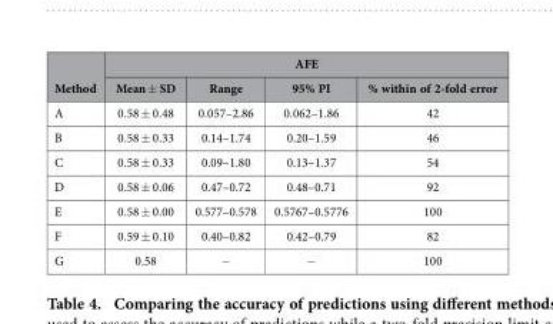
<table><thead><tr><td rowspan="2">Method</td><td colspan="4">AFE</td></tr><tr><td>Mean ± SD</td><td>Range</td><td>95% PI</td><td>% within of 2-fold error</td></tr></thead><tbody><tr><td>A</td><td>0.58 ± 0.48</td><td>0.057–2.86</td><td>0.062–1.86</td><td>42</td></tr><tr><td>B</td><td>0.58 ± 0.33</td><td>0.14–1.74</td><td>0.20–1.59</td><td>46</td></tr><tr><td>C</td><td>0.58 ± 0.33</td><td>0.09–1.80</td><td>0.13–1.37</td><td>54</td></tr><tr><td>D</td><td>0.58 ± 0.06</td><td>0.47–0.72</td><td>0.48–0.71</td><td>92</td></tr><tr><td>E</td><td>0.58 ± 0.00</td><td>0.577–0.578</td><td>0.5767–0.5776</td><td>100</td></tr><tr><td>F</td><td>0.59 ± 0.10</td><td>0.40–0.82</td><td>0.42–0.79</td><td>82</td></tr><tr><td>G</td><td>0.58</td><td>−</td><td>−</td><td>100</td></tr></tbody></table>